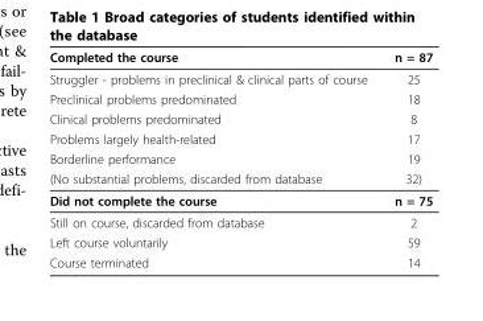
<table><thead><tr><td>Completed the course</td><td>n = 87</td></tr></thead><tbody><tr><td>Struggler - problems in preclinical &amp; clinical parts of course</td><td>25</td></tr><tr><td>Preclinical problems predominated</td><td>18</td></tr><tr><td>Clinical problems predominated</td><td>8</td></tr><tr><td>Problems largely health-related</td><td>17</td></tr><tr><td>Borderline performance</td><td>19</td></tr><tr><td>(No substantial problems, discarded from database</td><td>32)</td></tr><tr><td>Did not complete the course</td><td>n = 75</td></tr><tr><td>Still on course, discarded from database</td><td>2</td></tr><tr><td>Left course voluntarily</td><td>59</td></tr><tr><td>Course terminated</td><td>14</td></tr></tbody></table>